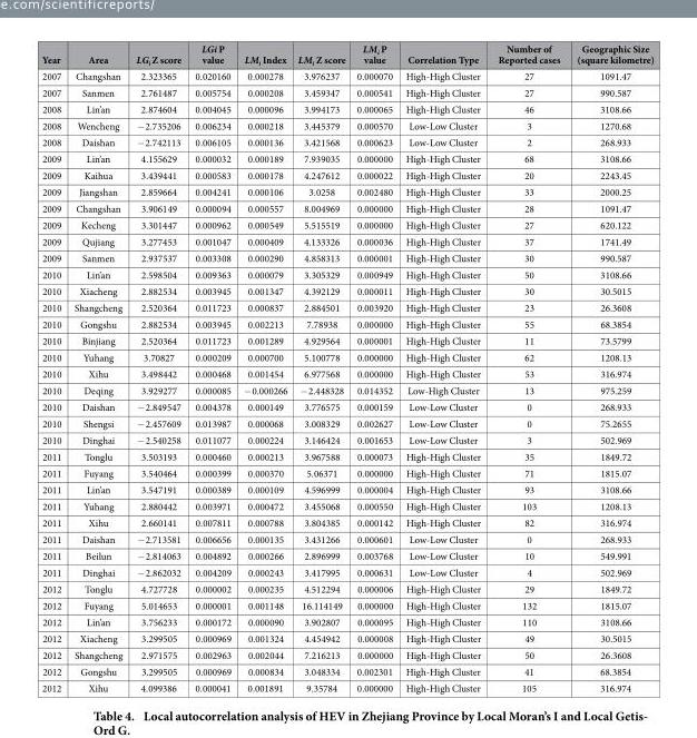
<table><thead><tr><td>Year</td><td>Area</td><td>LG<sub>i</sub> Z score</td><td>LGi P value</td><td>LM<sub>i</sub> Index</td><td>LM<sub>i</sub> Z score</td><td>LM<sub>i</sub> P value</td><td>Correlation Type</td><td>Number of Reported cases</td><td>Geographic Size (square kilometre)</td></tr></thead><tbody><tr><td>2007</td><td>Changshan</td><td>2.323365</td><td>0.020160</td><td>0.000278</td><td>3.976237</td><td>0.000070</td><td>High-High Cluster</td><td>27</td><td>1091.47</td></tr><tr><td>2007</td><td>Sanmen</td><td>2.761487</td><td>0.005754</td><td>0.000208</td><td>3.459347</td><td>0.000541</td><td>High-High Cluster</td><td>27</td><td>990.587</td></tr><tr><td>2008</td><td>Lin’an</td><td>2.874604</td><td>0.004045</td><td>0.000096</td><td>3.994173</td><td>0.000065</td><td>High-High Cluster</td><td>46</td><td>3108.66</td></tr><tr><td>2008</td><td>Wencheng</td><td>− 2.735206</td><td>0.006234</td><td>0.000218</td><td>3.445379</td><td>0.000570</td><td>Low-Low Cluster</td><td>3</td><td>1270.68</td></tr><tr><td>2008</td><td>Daishan</td><td>− 2.742113</td><td>0.006105</td><td>0.000136</td><td>3.421568</td><td>0.000623</td><td>Low-Low Cluster</td><td>2</td><td>268.933</td></tr><tr><td>2009</td><td>Lin’an</td><td>4.155629</td><td>0.000032</td><td>0.000189</td><td>7.939035</td><td>0.000000</td><td>High-High Cluster</td><td>68</td><td>3108.66</td></tr><tr><td>2009</td><td>Kaihua</td><td>3.439441</td><td>0.000583</td><td>0.000178</td><td>4.247612</td><td>0.000022</td><td>High-High Cluster</td><td>20</td><td>2243.45</td></tr><tr><td>2009</td><td>Jiangshan</td><td>2.859664</td><td>0.004241</td><td>0.000106</td><td>3.0258</td><td>0.002480</td><td>High-High Cluster</td><td>33</td><td>2000.25</td></tr><tr><td>2009</td><td>Changshan</td><td>3.906149</td><td>0.000094</td><td>0.000557</td><td>8.004969</td><td>0.000000</td><td>High-High Cluster</td><td>28</td><td>1091.47</td></tr><tr><td>2009</td><td>Kecheng</td><td>3.301447</td><td>0.000962</td><td>0.000549</td><td>5.515519</td><td>0.000000</td><td>High-High Cluster</td><td>27</td><td>620.122</td></tr><tr><td>2009</td><td>Qujiang</td><td>3.277453</td><td>0.001047</td><td>0.000409</td><td>4.133326</td><td>0.000036</td><td>High-High Cluster</td><td>37</td><td>1741.49</td></tr><tr><td>2009</td><td>Sanmen</td><td>2.937537</td><td>0.003308</td><td>0.000290</td><td>4.858313</td><td>0.000001</td><td>High-High Cluster</td><td>30</td><td>990.587</td></tr><tr><td>2010</td><td>Lin’an</td><td>2.598504</td><td>0.009363</td><td>0.000079</td><td>3.305329</td><td>0.000949</td><td>High-High Cluster</td><td>50</td><td>3108.66</td></tr><tr><td>2010</td><td>Xiacheng</td><td>2.882534</td><td>0.003945</td><td>0.001347</td><td>4.392129</td><td>0.000011</td><td>High-High Cluster</td><td>30</td><td>30.5015</td></tr><tr><td>2010</td><td>Shangcheng</td><td>2.520364</td><td>0.011723</td><td>0.000837</td><td>2.884501</td><td>0.003920</td><td>High-High Cluster</td><td>23</td><td>26.3608</td></tr><tr><td>2010</td><td>Gongshu</td><td>2.882534</td><td>0.003945</td><td>0.002213</td><td>7.78938</td><td>0.000000</td><td>High-High Cluster</td><td>55</td><td>68.3854</td></tr><tr><td>2010</td><td>Binjiang</td><td>2.520364</td><td>0.011723</td><td>0.001289</td><td>4.929564</td><td>0.000001</td><td>High-High Cluster</td><td>11</td><td>73.5799</td></tr><tr><td>2010</td><td>Yuhang</td><td>3.70827</td><td>0.000209</td><td>0.000700</td><td>5.100778</td><td>0.000000</td><td>High-High Cluster</td><td>62</td><td>1208.13</td></tr><tr><td>2010</td><td>Xihu</td><td>3.498442</td><td>0.000468</td><td>0.001454</td><td>6.977568</td><td>0.000000</td><td>High-High Cluster</td><td>53</td><td>316.974</td></tr><tr><td>2010</td><td>Deqing</td><td>3.929277</td><td>0.000085</td><td>− 0.000266</td><td>− 2.448328</td><td>0.014352</td><td>Low-High Cluster</td><td>13</td><td>975.259</td></tr><tr><td>2010</td><td>Daishan</td><td>− 2.849547</td><td>0.004378</td><td>0.000149</td><td>3.776575</td><td>0.000159</td><td>Low-Low Cluster</td><td>0</td><td>268.933</td></tr><tr><td>2010</td><td>Shengsi</td><td>− 2.457609</td><td>0.013987</td><td>0.000068</td><td>3.008329</td><td>0.002627</td><td>Low-Low Cluster</td><td>0</td><td>75.2655</td></tr><tr><td>2010</td><td>Dinghai</td><td>− 2.540258</td><td>0.011077</td><td>0.000224</td><td>3.146424</td><td>0.001653</td><td>Low-Low Cluster</td><td>3</td><td>502.969</td></tr><tr><td>2011</td><td>Tonglu</td><td>3.503193</td><td>0.000460</td><td>0.000213</td><td>3.967588</td><td>0.000073</td><td>High-High Cluster</td><td>35</td><td>1849.72</td></tr><tr><td>2011</td><td>Fuyang</td><td>3.540464</td><td>0.000399</td><td>0.000370</td><td>5.06371</td><td>0.000000</td><td>High-High Cluster</td><td>71</td><td>1815.07</td></tr><tr><td>2011</td><td>Lin’an</td><td>3.547191</td><td>0.000389</td><td>0.000109</td><td>4.596999</td><td>0.000004</td><td>High-High Cluster</td><td>93</td><td>3108.66</td></tr><tr><td>2011</td><td>Yuhang</td><td>2.880442</td><td>0.003971</td><td>0.000472</td><td>3.455068</td><td>0.000550</td><td>High-High Cluster</td><td>103</td><td>1208.13</td></tr><tr><td>2011</td><td>Xihu</td><td>2.660141</td><td>0.007811</td><td>0.000788</td><td>3.804385</td><td>0.000142</td><td>High-High Cluster</td><td>82</td><td>316.974</td></tr><tr><td>2011</td><td>Daishan</td><td>− 2.713581</td><td>0.006656</td><td>0.000135</td><td>3.431266</td><td>0.000601</td><td>Low-Low Cluster</td><td>0</td><td>268.933</td></tr><tr><td>2011</td><td>Beilun</td><td>− 2.814063</td><td>0.004892</td><td>0.000266</td><td>2.896999</td><td>0.003768</td><td>Low-Low Cluster</td><td>10</td><td>549.991</td></tr><tr><td>2011</td><td>Dinghai</td><td>− 2.862032</td><td>0.004209</td><td>0.000243</td><td>3.417995</td><td>0.000631</td><td>Low-Low Cluster</td><td>4</td><td>502.969</td></tr><tr><td>2012</td><td>Tonglu</td><td>4.727728</td><td>0.000002</td><td>0.000235</td><td>4.512294</td><td>0.000006</td><td>High-High Cluster</td><td>29</td><td>1849.72</td></tr><tr><td>2012</td><td>Fuyang</td><td>5.014653</td><td>0.000001</td><td>0.001148</td><td>16.114149</td><td>0.000000</td><td>High-High Cluster</td><td>132</td><td>1815.07</td></tr><tr><td>2012</td><td>Lin’an</td><td>3.756233</td><td>0.000172</td><td>0.000090</td><td>3.902807</td><td>0.000095</td><td>High-High Cluster</td><td>110</td><td>3108.66</td></tr><tr><td>2012</td><td>Xiacheng</td><td>3.299505</td><td>0.000969</td><td>0.001324</td><td>4.454942</td><td>0.000008</td><td>High-High Cluster</td><td>49</td><td>30.5015</td></tr><tr><td>2012</td><td>Shangcheng</td><td>2.971575</td><td>0.002963</td><td>0.002044</td><td>7.216213</td><td>0.000000</td><td>High-High Cluster</td><td>50</td><td>26.3608</td></tr><tr><td>2012</td><td>Gongshu</td><td>3.299505</td><td>0.000969</td><td>0.000834</td><td>3.048334</td><td>0.002301</td><td>High-High Cluster</td><td>41</td><td>68.3854</td></tr><tr><td>2012</td><td>Xihu</td><td>4.099386</td><td>0.000041</td><td>0.001891</td><td>9.35784</td><td>0.000000</td><td>High-High Cluster</td><td>105</td><td>316.974</td></tr></tbody></table>